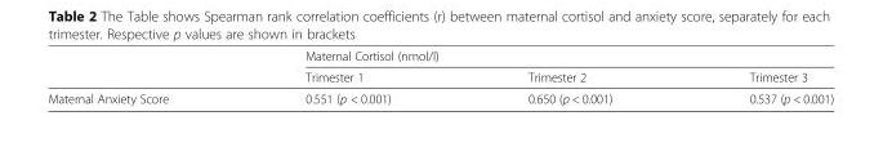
<table><thead><tr><td rowspan="2"></td><td colspan="3">Maternal Cortisol (nmol/l)</td></tr><tr><td>Trimester 1</td><td>Trimester 2</td><td>Trimester 3</td></tr></thead><tbody><tr><td>Maternal Anxiety Score</td><td>0.551 (p &lt; 0.001)</td><td>0.650 (p &lt; 0.001)</td><td>0.537 (p &lt; 0.001)</td></tr></tbody></table>